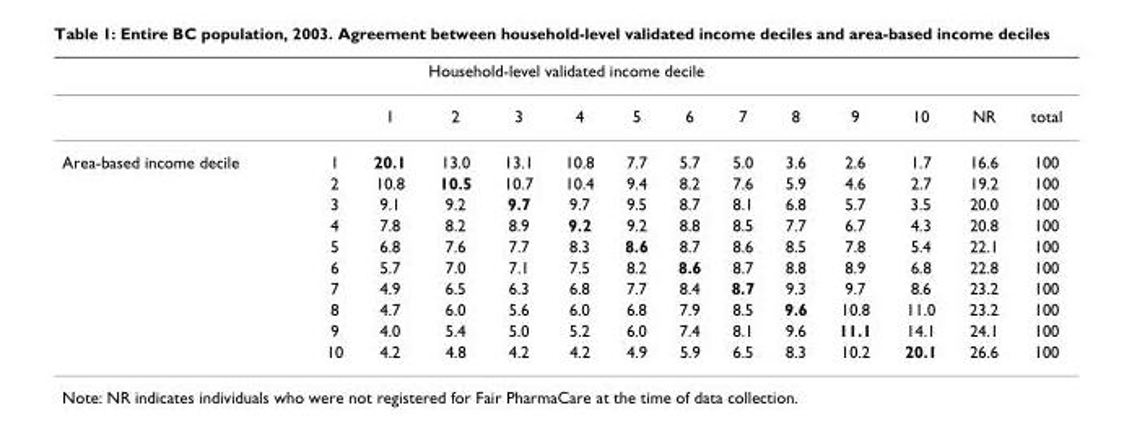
<table><thead><tr><td colspan="14">Household-level validated income decile</td></tr><tr><td></td><td></td><td>1</td><td>2</td><td>3</td><td>4</td><td>5</td><td>6</td><td>7</td><td>8</td><td>9</td><td>10</td><td>NR</td><td>total</td></tr></thead><tbody><tr><td rowspan="10">Area-based income decile</td><td>1</td><td>20.1</td><td>13.0</td><td>13.1</td><td>10.8</td><td>7.7</td><td>5.7</td><td>5.0</td><td>3.6</td><td>2.6</td><td>1.7</td><td>16.6</td><td>100</td></tr><tr><td>2</td><td>10.8</td><td>10.5</td><td>10.7</td><td>10.4</td><td>9.4</td><td>8.2</td><td>7.6</td><td>5.9</td><td>4.6</td><td>2.7</td><td>19.2</td><td>100</td></tr><tr><td>3</td><td>9.1</td><td>9.2</td><td>9.7</td><td>9.7</td><td>9.5</td><td>8.7</td><td>8.1</td><td>6.8</td><td>5.7</td><td>3.5</td><td>20.0</td><td>100</td></tr><tr><td>4</td><td>7.8</td><td>8.2</td><td>8.9</td><td>9.2</td><td>9.2</td><td>8.8</td><td>8.5</td><td>7.7</td><td>6.7</td><td>4.3</td><td>20.8</td><td>100</td></tr><tr><td>5</td><td>6.8</td><td>7.6</td><td>7.7</td><td>8.3</td><td>8.6</td><td>8.7</td><td>8.6</td><td>8.5</td><td>7.8</td><td>5.4</td><td>22.1</td><td>100</td></tr><tr><td>6</td><td>5.7</td><td>7.0</td><td>7.1</td><td>7.5</td><td>8.2</td><td>8.6</td><td>8.7</td><td>8.8</td><td>8.9</td><td>6.8</td><td>22.8</td><td>100</td></tr><tr><td>7</td><td>4.9</td><td>6.5</td><td>6.3</td><td>6.8</td><td>7.7</td><td>8.4</td><td>8.7</td><td>9.3</td><td>9.7</td><td>8.6</td><td>23.2</td><td>100</td></tr><tr><td>8</td><td>4.7</td><td>6.0</td><td>5.6</td><td>6.0</td><td>6.8</td><td>7.9</td><td>8.5</td><td>9.6</td><td>10.8</td><td>11.0</td><td>23.2</td><td>100</td></tr><tr><td>9</td><td>4.0</td><td>5.4</td><td>5.0</td><td>5.2</td><td>6.0</td><td>7.4</td><td>8.1</td><td>9.6</td><td>11.1</td><td>14.1</td><td>24.1</td><td>100</td></tr><tr><td>10</td><td>4.2</td><td>4.8</td><td>4.2</td><td>4.2</td><td>4.9</td><td>5.9</td><td>6.5</td><td>8.3</td><td>10.2</td><td>20.1</td><td>26.6</td><td>100</td></tr></tbody></table>